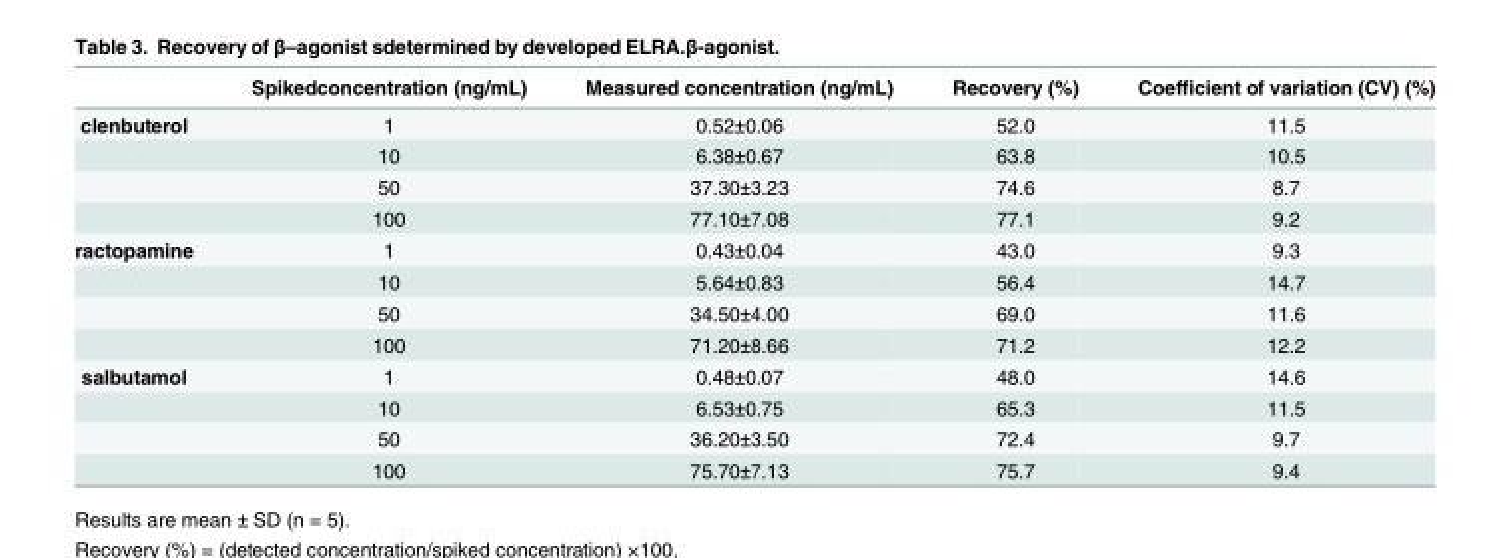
<table><thead><tr><td></td><td>Spikedconcentration (ng/mL)</td><td>Measured concentration (ng/mL)</td><td>Recovery (%)</td><td>Coefficient of variation (CV) (%)</td></tr></thead><tbody><tr><td rowspan="4">clenbuterol</td><td>1</td><td>0.52±0.06</td><td>52.0</td><td>11.5</td></tr><tr><td>10</td><td>6.38±0.67</td><td>63.8</td><td>10.5</td></tr><tr><td>50</td><td>37.30±3.23</td><td>74.6</td><td>8.7</td></tr><tr><td>100</td><td>77.10±7.08</td><td>77.1</td><td>9.2</td></tr><tr><td rowspan="4">ractopamine</td><td>1</td><td>0.43±0.04</td><td>43.0</td><td>9.3</td></tr><tr><td>10</td><td>5.64±0.83</td><td>56.4</td><td>14.7</td></tr><tr><td>50</td><td>34.50±4.00</td><td>69.0</td><td>11.6</td></tr><tr><td>100</td><td>71.20±8.66</td><td>71.2</td><td>12.2</td></tr><tr><td rowspan="4">salbutamol</td><td>1</td><td>0.48±0.07</td><td>48.0</td><td>14.6</td></tr><tr><td>10</td><td>6.53±0.75</td><td>65.3</td><td>11.5</td></tr><tr><td>50</td><td>36.20±3.50</td><td>72.4</td><td>9.7</td></tr><tr><td>100</td><td>75.70±7.13</td><td>75.7</td><td>9.4</td></tr></tbody></table>